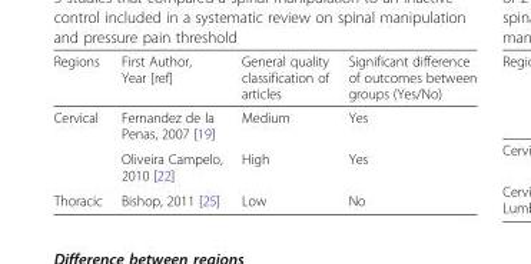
<table><thead><tr><td>Regions</td><td>First Author, Year [ref]</td><td>General quality classification of articles</td><td>Significant difference of outcomes between groups (Yes/No)</td></tr></thead><tbody><tr><td rowspan="2">Cervical</td><td>Fernandez de la Penas, 2007 [19]</td><td>Medium</td><td>Yes</td></tr><tr><td>Oliveira Campelo, 2010 [22]</td><td>High</td><td>Yes</td></tr><tr><td>Thoracic</td><td>Bishop, 2011 [25]</td><td>Low</td><td>No</td></tr></tbody></table>